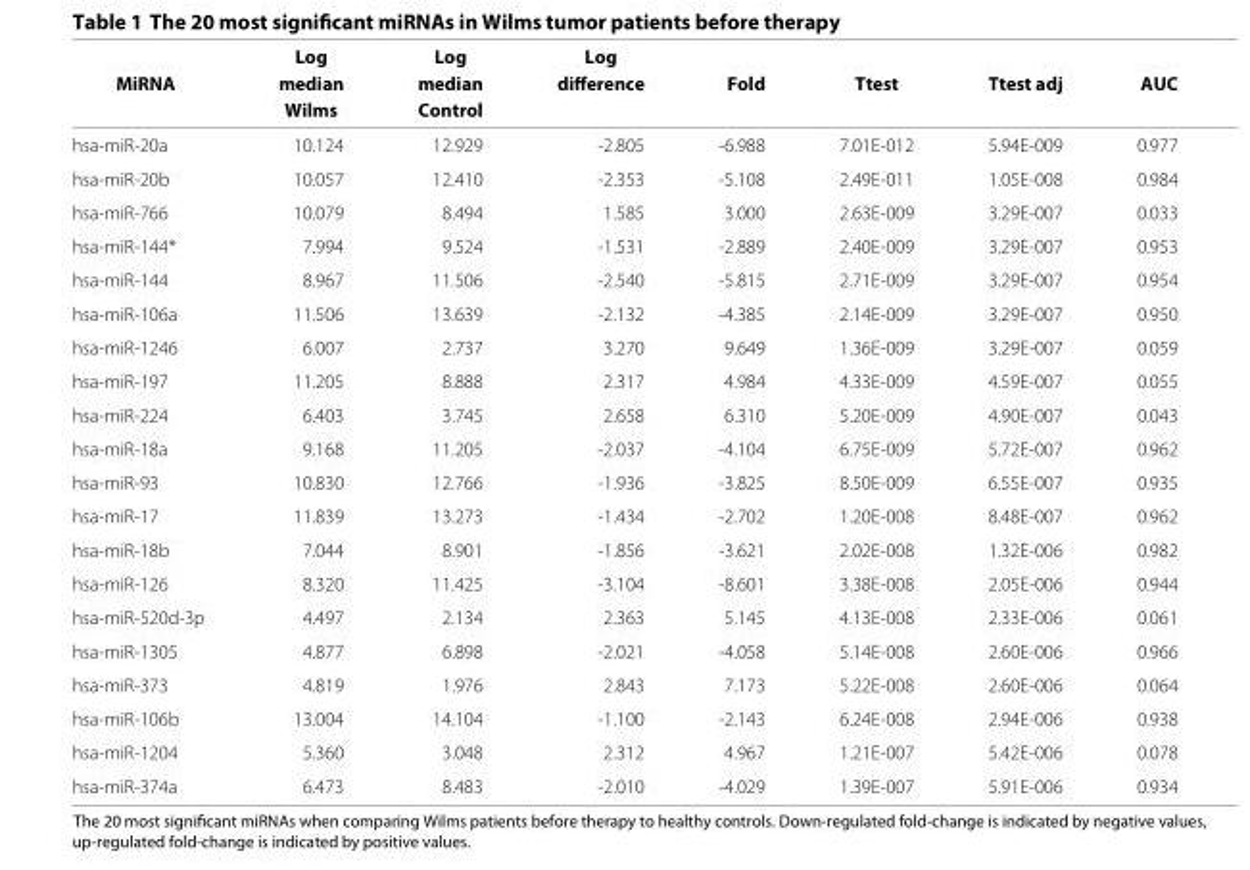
<table><thead><tr><td rowspan="2">MiRNA</td><td rowspan="2">median Wilms</td><td rowspan="2">median Control</td><td rowspan="2">difference</td><td rowspan="2">Fold</td><td rowspan="2">Ttest</td><td rowspan="2">Ttest adj</td><td rowspan="2">AUC</td></tr><tr></tr></thead><tbody><tr><td>hsa-miR-20a</td><td>10.124</td><td>12.929</td><td>-2.805</td><td>-6.988</td><td>7.01E-012</td><td>5.94E-009</td><td>0.977</td></tr><tr><td>hsa-miR-20b</td><td>10.057</td><td>12.410</td><td>-2.353</td><td>-5.108</td><td>2.49E-011</td><td>1.05E-008</td><td>0.984</td></tr><tr><td>hsa-miR-766</td><td>10.079</td><td>8.494</td><td>1.585</td><td>3.000</td><td>2.63E-009</td><td>3.29E-007</td><td>0.033</td></tr><tr><td>hsa-miR-144*</td><td>7.994</td><td>9.524</td><td>-1.531</td><td>-2.889</td><td>2.40E-009</td><td>3.29E-007</td><td>0.953</td></tr><tr><td>hsa-miR-144</td><td>8.967</td><td>11.506</td><td>-2.540</td><td>-5.815</td><td>2.71E-009</td><td>3.29E-007</td><td>0.954</td></tr><tr><td>hsa-miR-106a</td><td>11.506</td><td>13.639</td><td>-2.132</td><td>-4.385</td><td>2.14E-009</td><td>3.29E-007</td><td>0.950</td></tr><tr><td>hsa-miR-1246</td><td>6.007</td><td>2.737</td><td>3.270</td><td>9.649</td><td>1.36E-009</td><td>3.29E-007</td><td>0.059</td></tr><tr><td>hsa-miR-197</td><td>11.205</td><td>8.888</td><td>2.317</td><td>4.984</td><td>4.33E-009</td><td>4.59E-007</td><td>0.055</td></tr><tr><td>hsa-miR-224</td><td>6.403</td><td>3.745</td><td>2.658</td><td>6.310</td><td>5.20E-009</td><td>4.90E-007</td><td>0.043</td></tr><tr><td>hsa-miR-18a</td><td>9.168</td><td>11.205</td><td>-2.037</td><td>-4.104</td><td>6.75E-009</td><td>5.72E-007</td><td>0.962</td></tr><tr><td>hsa-miR-93</td><td>10.830</td><td>12.766</td><td>-1.936</td><td>-3.825</td><td>8.50E-009</td><td>6.55E-007</td><td>0.935</td></tr><tr><td>hsa-miR-17</td><td>11.839</td><td>13.273</td><td>-1.434</td><td>-2.702</td><td>1.20E-008</td><td>8.48E-007</td><td>0.962</td></tr><tr><td>hsa-miR-18b</td><td>7.044</td><td>8.901</td><td>-1.856</td><td>-3.621</td><td>2.02E-008</td><td>1.32E-006</td><td>0.982</td></tr><tr><td>hsa-miR-126</td><td>8.320</td><td>11.425</td><td>-3.104</td><td>-8.601</td><td>3.38E-008</td><td>2.05E-006</td><td>0.944</td></tr><tr><td>hsa-miR-520d-3p</td><td>4.497</td><td>2.134</td><td>2.363</td><td>5.145</td><td>4.13E-008</td><td>2.33E-006</td><td>0.061</td></tr><tr><td>hsa-miR-1305</td><td>4.877</td><td>6.898</td><td>-2.021</td><td>-4.058</td><td>5.14E-008</td><td>2.60E-006</td><td>0.966</td></tr><tr><td>hsa-miR-373</td><td>4.819</td><td>1.976</td><td>2.843</td><td>7.173</td><td>5.22E-008</td><td>2.60E-006</td><td>0.064</td></tr><tr><td>hsa-miR-106b</td><td>13.004</td><td>14.104</td><td>-1.100</td><td>-2.143</td><td>6.24E-008</td><td>2.94E-006</td><td>0.938</td></tr><tr><td>hsa-miR-1204</td><td>5.360</td><td>3.048</td><td>2.312</td><td>4.967</td><td>1.21E-007</td><td>5.42E-006</td><td>0.078</td></tr><tr><td>hsa-miR-374a</td><td>6.473</td><td>8.483</td><td>-2.010</td><td>-4.029</td><td>1.39E-007</td><td>5.91E-006</td><td>0.934</td></tr></tbody></table>